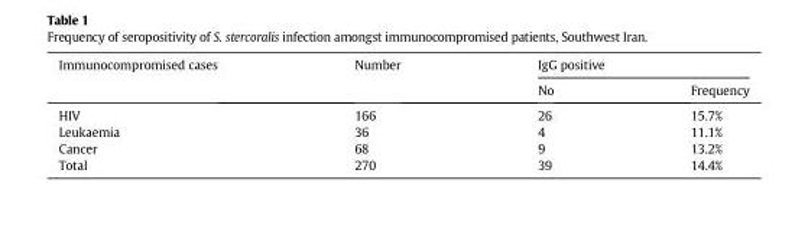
<table><thead><tr><td rowspan="2">Immunocompromised cases</td><td rowspan="2">Number</td><td colspan="2">IgG positive</td></tr><tr><td>No</td><td>Frequency</td></tr></thead><tbody><tr><td>HIV</td><td>166</td><td>26</td><td>15.7%</td></tr><tr><td>Leukaemia</td><td>36</td><td>4</td><td>11.1%</td></tr><tr><td>Cancer</td><td>68</td><td>9</td><td>13.2%</td></tr><tr><td>Total</td><td>270</td><td>39</td><td>14.4%</td></tr></tbody></table>